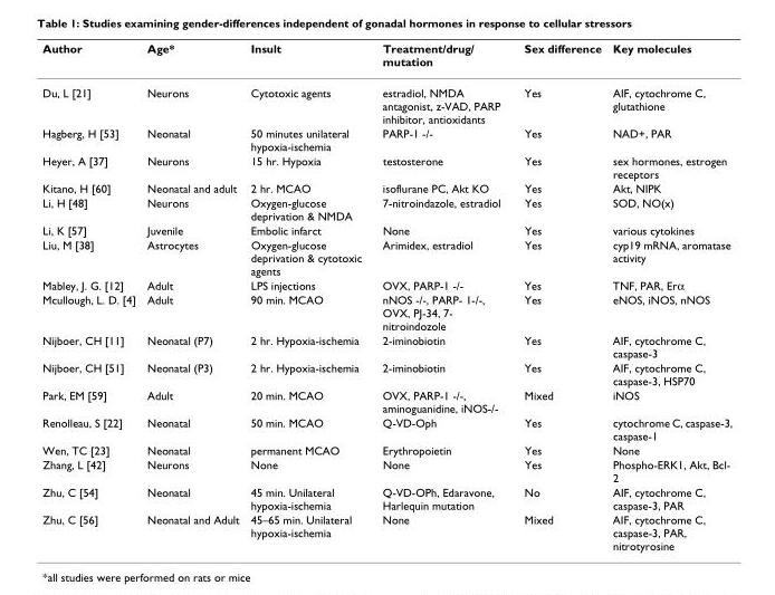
<table><thead><tr><td>Author</td><td>Age*</td><td>Insult</td><td>Treatment/drug/ mutation</td><td>Sex difference</td><td>Key molecules</td></tr></thead><tbody><tr><td>Du, L [21]</td><td>Neurons</td><td>Cytotoxic agents</td><td>estradiol, NMDA antagonist, z-VAD, PARP inhibitor, antioxidants</td><td>Yes</td><td>AIF, cytochrome C, glutathione</td></tr><tr><td>Hagberg, H [53]</td><td>Neonatal</td><td>50 minutes unilateral hypoxia-ischemia</td><td>PARP-1 -/-</td><td>Yes</td><td>NAD+, PAR</td></tr><tr><td>Heyer, A [37]</td><td>Neurons</td><td>15 hr. Hypoxia</td><td>testosterone</td><td>Yes</td><td>sex hormones, estrogen receptors</td></tr><tr><td>Kitano, H [60]</td><td>Neonatal and adult</td><td>2 hr. MCAO</td><td>isoflurane PC, Akt KO</td><td>Yes</td><td>Akt, NIPK</td></tr><tr><td>Li, H [48]</td><td>Neurons</td><td>Oxygen-glucose deprivation &amp; NMDA</td><td>7-nitroindazole, estradiol</td><td>Yes</td><td>SOD, NO(x)</td></tr><tr><td>Li, K [57]</td><td>Juvenile</td><td>Embolic infarct</td><td>None</td><td>Yes</td><td>various cytokines</td></tr><tr><td>Liu, M [38]</td><td>Astrocytes</td><td>Oxygen-glucose deprivation &amp; cytotoxic agents</td><td>Arimidex, estradiol</td><td>Yes</td><td>cyp19 mRNA, aromatase activity</td></tr><tr><td>Mabley, J. G. [12]</td><td>Adult</td><td>LPS injections</td><td>OVX, PARP-1 -/-</td><td>Yes</td><td>TNF, PAR, Erα</td></tr><tr><td>Mcullough, L. D. [4]</td><td>Adult</td><td>90 min. MCAO</td><td>nNOS -/-, PARP- 1-/-, OVX, PJ-34, 7- nitroindozole</td><td>Yes</td><td>eNOS, iNOS, nNOS</td></tr><tr><td>Nijboer, CH [11]</td><td>Neonatal (P7)</td><td>2 hr. Hypoxia-ischemia</td><td>2-iminobiotin</td><td>Yes</td><td>AIF, cytochrome C, caspase-3</td></tr><tr><td>Nijboer, CH [51]</td><td>Neonatal (P3)</td><td>2 hr. Hypoxia-ischemia</td><td>2-iminobiotin</td><td>Yes</td><td>AIF, cytochrome C, caspase-3, HSP70</td></tr><tr><td>Park, EM [59]</td><td>Adult</td><td>20 min. MCAO</td><td>OVX, PARP-1 -/-, aminoguanidine, iNOS-/-</td><td>Mixed</td><td>iNOS</td></tr><tr><td>Renolleau, S [22]</td><td>Neonatal</td><td>50 min. MCAO</td><td>Q-VD-Oph</td><td>Yes</td><td>cytochrome C, caspase-3, caspase-1</td></tr><tr><td>Wen, TC [23]</td><td>Neonatal</td><td>permanent MCAO</td><td>Erythropoietin</td><td>Yes</td><td>None</td></tr><tr><td>Zhang, L [42]</td><td>Neurons</td><td>None</td><td>None</td><td>Yes</td><td>Phospho-ERK1, Akt, Bcl- 2</td></tr><tr><td>Zhu, C [54]</td><td>Neonatal</td><td>45 min. Unilateral hypoxia-ischemia</td><td>Q-VD-OPh, Edaravone, Harlequin mutation</td><td>No</td><td>AIF, cytochrome C, caspase-3, PAR</td></tr><tr><td>Zhu, C [56]</td><td>Neonatal and Adult</td><td>45–65 min. Unilateral hypoxia-ischemia</td><td>None</td><td>Mixed</td><td>AIF, cytochrome C, caspase-3, PAR, nitrotyrosine</td></tr></tbody></table>